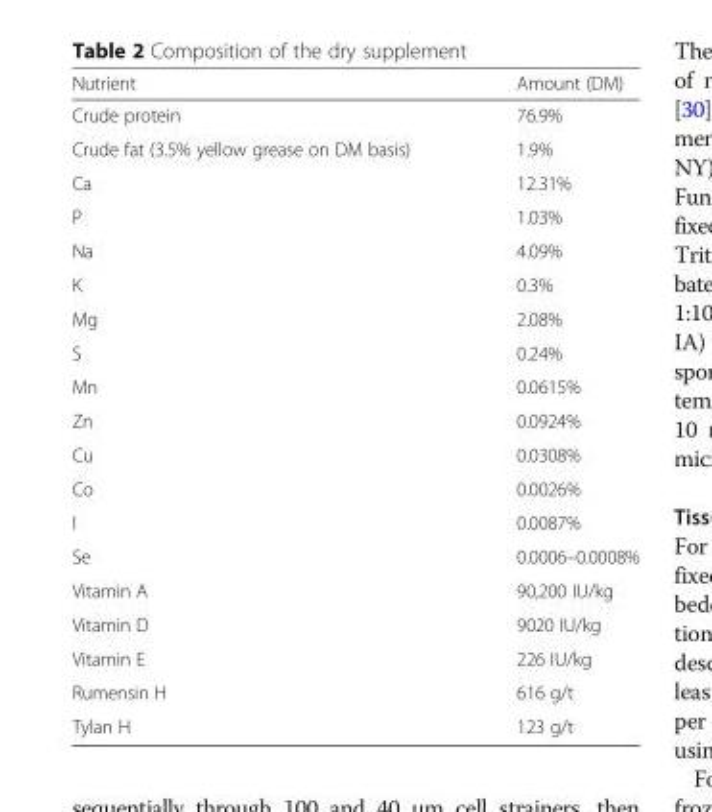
<table><thead><tr><td>Nutrient</td><td>Amount (DM)</td></tr></thead><tbody><tr><td>Crude protein</td><td>76.9%</td></tr><tr><td>Crude fat (3.5% yellow grease on DM basis)</td><td>1.9%</td></tr><tr><td>Ca</td><td>12.31%</td></tr><tr><td>P</td><td>1.03%</td></tr><tr><td>Na</td><td>4.09%</td></tr><tr><td>K</td><td>0.3%</td></tr><tr><td>Mg</td><td>2.08%</td></tr><tr><td>S</td><td>0.24%</td></tr><tr><td>Mn</td><td>0.0615%</td></tr><tr><td>Zn</td><td>0.0924%</td></tr><tr><td>Cu</td><td>0.0308%</td></tr><tr><td>Co</td><td>0.0026%</td></tr><tr><td>I</td><td>0.0087%</td></tr><tr><td>Se</td><td>0.0006–0.0008%</td></tr><tr><td>Vitamin A</td><td>90,200 IU/kg</td></tr><tr><td>Vitamin D</td><td>9020 IU/kg</td></tr><tr><td>Vitamin E</td><td>226 IU/kg</td></tr><tr><td>Rumensin H</td><td>616 g/t</td></tr><tr><td>Tylan H</td><td>123 g/t</td></tr></tbody></table>